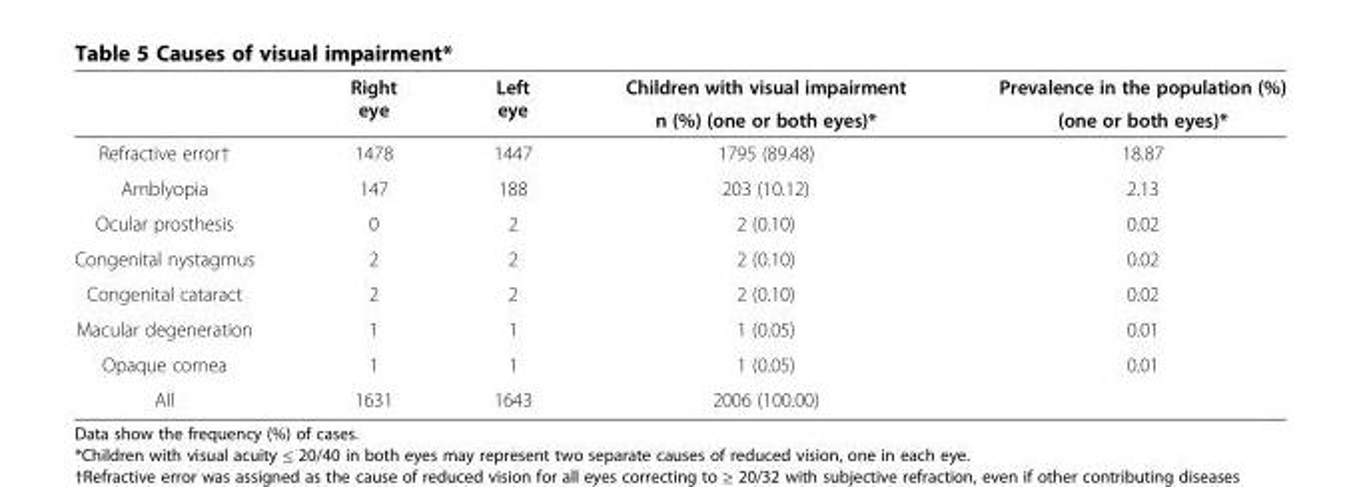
<table><thead><tr><td rowspan="2"></td><td rowspan="2">Right eye</td><td rowspan="2">Left eye</td><td rowspan="2">Children with visual impairment n (%) (one or both eyes)*</td><td rowspan="2">Prevalence in the population (%) (one or both eyes)*</td></tr><tr></tr></thead><tbody><tr><td>Refractive error†</td><td>1478</td><td>1447</td><td>1795 (89.48)</td><td>18.87</td></tr><tr><td>Amblyopia</td><td>147</td><td>188</td><td>203 (10.12)</td><td>2.13</td></tr><tr><td>Ocular prosthesis</td><td>0</td><td>2</td><td>2 (0.10)</td><td>0.02</td></tr><tr><td>Congenital nystagmus</td><td>2</td><td>2</td><td>2 (0.10)</td><td>0.02</td></tr><tr><td>Congenital cataract</td><td>2</td><td>2</td><td>2 (0.10)</td><td>0.02</td></tr><tr><td>Macular degeneration</td><td>1</td><td>1</td><td>1 (0.05)</td><td>0.01</td></tr><tr><td>Opaque cornea</td><td>1</td><td>1</td><td>1 (0.05)</td><td>0.01</td></tr><tr><td>All</td><td>1631</td><td>1643</td><td>2006 (100.00)</td><td></td></tr></tbody></table>